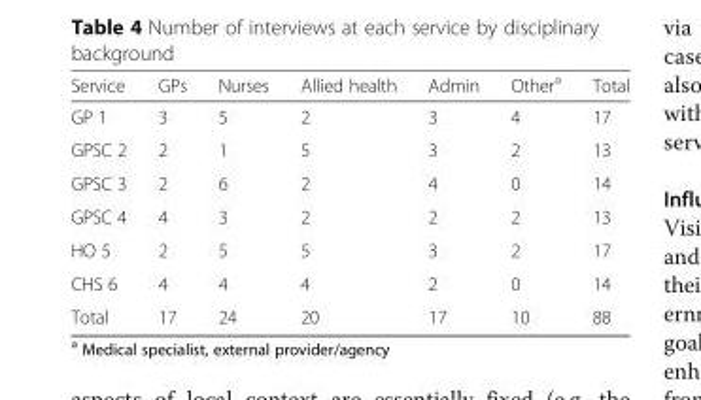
<table><thead><tr><td>Service</td><td>GPs</td><td>Nurses</td><td>Allied health</td><td>Admin</td><td>Other<sup>a</sup></td><td>Total</td></tr></thead><tbody><tr><td>GP 1</td><td>3</td><td>5</td><td>2</td><td>3</td><td>4</td><td>17</td></tr><tr><td>GPSC 2</td><td>2</td><td>1</td><td>5</td><td>3</td><td>2</td><td>13</td></tr><tr><td>GPSC 3</td><td>2</td><td>6</td><td>2</td><td>4</td><td>0</td><td>14</td></tr><tr><td>GPSC 4</td><td>4</td><td>3</td><td>2</td><td>2</td><td>2</td><td>13</td></tr><tr><td>HO 5</td><td>2</td><td>5</td><td>5</td><td>3</td><td>2</td><td>17</td></tr><tr><td>CHS 6</td><td>4</td><td>4</td><td>4</td><td>2</td><td>0</td><td>14</td></tr><tr><td>Total</td><td>17</td><td>24</td><td>20</td><td>17</td><td>10</td><td>88</td></tr></tbody></table>